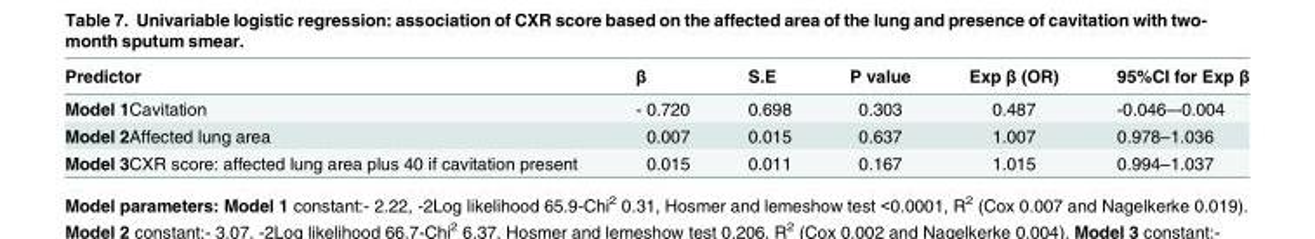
<table><thead><tr><td>Predictor</td><td>β</td><td>S.E</td><td>P value</td><td>Exp β (OR)</td><td>95%CI for Exp β</td></tr></thead><tbody><tr><td>Model 1Cavitation</td><td>- 0.720</td><td>0.698</td><td>0.303</td><td>0.487</td><td>-0.046–-0.004</td></tr><tr><td>Model 2Affected lung area</td><td>0.007</td><td>0.015</td><td>0.637</td><td>1.007</td><td>0.978–1.036</td></tr><tr><td>Model 3CXR score: affected lung area plus 40 if cavitation present</td><td>0.015</td><td>0.011</td><td>0.167</td><td>1.015</td><td>0.994–1.037</td></tr></tbody></table>